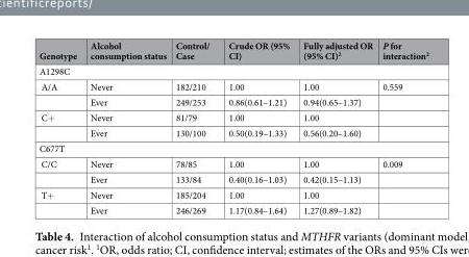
<table><thead><tr><td>Genotype</td><td>Alcohol consumption status</td><td>Control/ Case</td><td>Crude OR (95% CI)</td><td>Fully adjusted OR (95% CI)<sup>2</sup></td><td>P for interaction<sup>2</sup></td></tr></thead><tbody><tr><td colspan="6">A1298C</td></tr><tr><td rowspan="2">A/A</td><td>Never</td><td>182/210</td><td>1.00</td><td>1.00</td><td>0.559</td></tr><tr><td>Ever</td><td>249/253</td><td>0.86(0.61–1.21)</td><td>0.94(0.65–1.37)</td><td></td></tr><tr><td rowspan="2">C+</td><td>Never</td><td>81/79</td><td>1.00</td><td>1.00</td><td></td></tr><tr><td>Ever</td><td>130/100</td><td>0.50(0.19–1.33)</td><td>0.56(0.20–1.60)</td><td></td></tr><tr><td colspan="6">C677T</td></tr><tr><td rowspan="2">C/C</td><td>Never</td><td>78/85</td><td>1.00</td><td>1.00</td><td>0.009</td></tr><tr><td>Ever</td><td>133/84</td><td>0.40(0.16–1.03)</td><td>0.42(0.15–1.13)</td><td></td></tr><tr><td rowspan="2">T+</td><td>Never</td><td>185/204</td><td>1.00</td><td>1.00</td><td></td></tr><tr><td>Ever</td><td>246/269</td><td>1.17(0.84–1.64)</td><td>1.27(0.89–1.82)</td><td></td></tr></tbody></table>